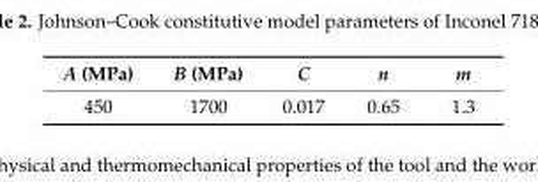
<table><thead><tr><td>A (MPa)</td><td>B (MPa)</td><td>C</td><td>n</td><td>m</td></tr></thead><tbody><tr><td>450</td><td>1700</td><td>0.017</td><td>0.65</td><td>1.3</td></tr></tbody></table>